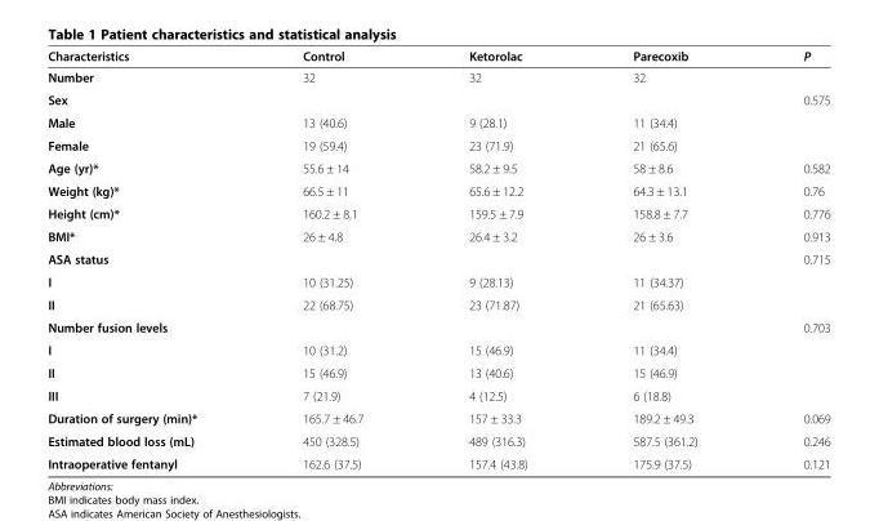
<table><thead><tr><td>Characteristics</td><td>Control</td><td>Ketorolac</td><td>Parecoxib</td><td>P</td></tr></thead><tbody><tr><td>Number</td><td>32</td><td>32</td><td>32</td><td></td></tr><tr><td>Sex</td><td></td><td></td><td></td><td>0.575</td></tr><tr><td>Male</td><td>13 (40.6)</td><td>9 (28.1)</td><td>11 (34.4)</td><td></td></tr><tr><td>Female</td><td>19 (59.4)</td><td>23 (71.9)</td><td>21 (65.6)</td><td></td></tr><tr><td>Age (yr)*</td><td>55.6 ± 14</td><td>58.2 ± 9.5</td><td>58 ± 8.6</td><td>0.582</td></tr><tr><td>Weight (kg)*</td><td>66.5 ± 11</td><td>65.6 ± 12.2</td><td>64.3 ± 13.1</td><td>0.76</td></tr><tr><td>Height (cm)*</td><td>160.2 ± 8.1</td><td>159.5 ± 7.9</td><td>158.8 ± 7.7</td><td>0.776</td></tr><tr><td>BMI*</td><td>26 ± 4.8</td><td>26.4 ± 3.2</td><td>26 ± 3.6</td><td>0.913</td></tr><tr><td>ASA status</td><td></td><td></td><td></td><td>0.715</td></tr><tr><td>I</td><td>10 (31.25)</td><td>9 (28.13)</td><td>11 (34.37)</td><td></td></tr><tr><td>II</td><td>22 (68.75)</td><td>23 (71.87)</td><td>21 (65.63)</td><td></td></tr><tr><td>Number fusion levels</td><td></td><td></td><td></td><td>0.703</td></tr><tr><td>I</td><td>10 (31.2)</td><td>15 (46.9)</td><td>11 (34.4)</td><td></td></tr><tr><td>II</td><td>15 (46.9)</td><td>13 (40.6)</td><td>15 (46.9)</td><td></td></tr><tr><td>III</td><td>7 (21.9)</td><td>4 (12.5)</td><td>6 (18.8)</td><td></td></tr><tr><td>Duration of surgery (min)*</td><td>165.7 ± 46.7</td><td>157 ± 33.3</td><td>189.2 ± 49.3</td><td>0.069</td></tr><tr><td>Estimated blood loss (mL)</td><td>450 (328.5)</td><td>489 (316.3)</td><td>587.5 (361.2)</td><td>0.246</td></tr><tr><td>Intraoperative fentanyl</td><td>162.6 (37.5)</td><td>157.4 (43.8)</td><td>175.9 (37.5)</td><td>0.121</td></tr></tbody></table>